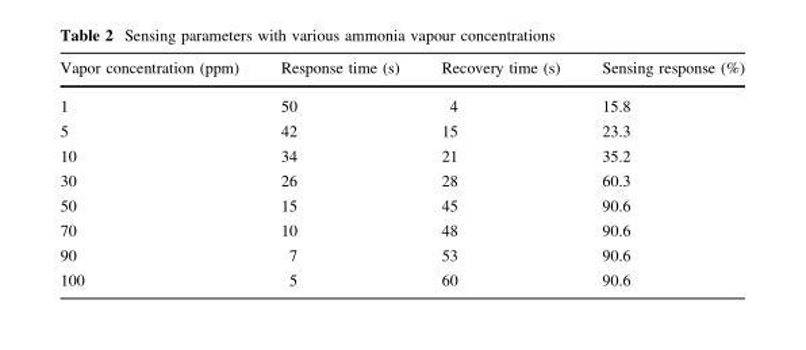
<table><thead><tr><td>Vapor concentration (ppm)</td><td>Response time (s)</td><td>Recovery time (s)</td><td>Sensing response (%)</td></tr></thead><tbody><tr><td>1</td><td>50</td><td>4</td><td>15.8</td></tr><tr><td>5</td><td>42</td><td>15</td><td>23.3</td></tr><tr><td>10</td><td>34</td><td>21</td><td>35.2</td></tr><tr><td>30</td><td>26</td><td>28</td><td>60.3</td></tr><tr><td>50</td><td>15</td><td>45</td><td>90.6</td></tr><tr><td>70</td><td>10</td><td>48</td><td>90.6</td></tr><tr><td>90</td><td>7</td><td>53</td><td>90.6</td></tr><tr><td>100</td><td>5</td><td>60</td><td>90.6</td></tr></tbody></table>